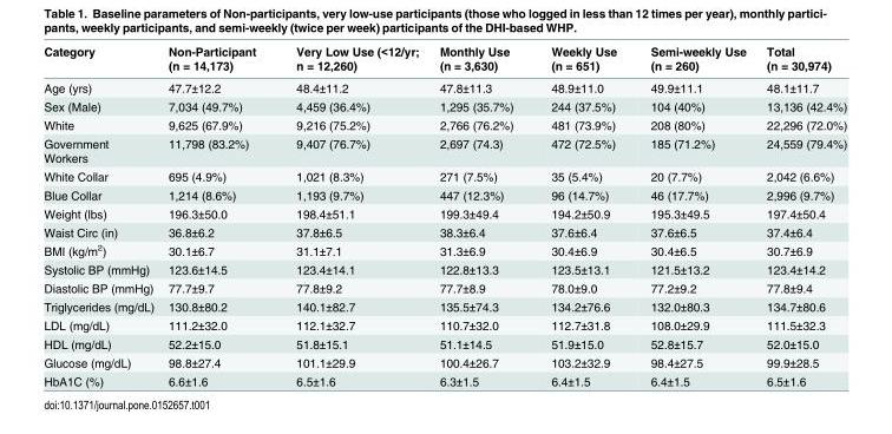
<table><thead><tr><td>Category</td><td>Non-Participant (n = 14,173)</td><td>Very Low Use (&lt;12/yr; n = 12,260)</td><td>Monthly Use (n = 3,630)</td><td>Weekly Use (n = 651)</td><td>Semi-weekly Use (n = 260)</td><td>Total (n = 30,974)</td></tr></thead><tbody><tr><td>Age (yrs)</td><td>47.7±12.2</td><td>48.4±11.2</td><td>47.8±11.3</td><td>48.9±11.0</td><td>49.9±11.1</td><td>48.1±11.7</td></tr><tr><td>Sex (Male)</td><td>7,034 (49.7%)</td><td>4,459 (36.4%)</td><td>1,295 (35.7%)</td><td>244 (37.5%)</td><td>104 (40%)</td><td>13,136 (42.4%)</td></tr><tr><td>White</td><td>9,625 (67.9%)</td><td>9,216 (75.2%)</td><td>2,766 (76.2%)</td><td>481 (73.9%)</td><td>208 (80%)</td><td>22,296 (72.0%)</td></tr><tr><td>Government Workers</td><td>11,798 (83.2%)</td><td>9,407 (76.7%)</td><td>2,697 (74.3)</td><td>472 (72.5%)</td><td>185 (71.2%)</td><td>24,559 (79.4%)</td></tr><tr><td>White Collar</td><td>695 (4.9%)</td><td>1,021 (8.3%)</td><td>271 (7.5%)</td><td>35 (5.4%)</td><td>20 (7.7%)</td><td>2,042 (6.6%)</td></tr><tr><td>Blue Collar</td><td>1,214 (8.6%)</td><td>1,193 (9.7%)</td><td>447 (12.3%)</td><td>96 (14.7%)</td><td>46 (17.7%)</td><td>2,996 (9.7%)</td></tr><tr><td>Weight (lbs)</td><td>196.3±50.0</td><td>198.4±51.1</td><td>199.3±49.4</td><td>194.2±50.9</td><td>195.3±49.5</td><td>197.4±50.4</td></tr><tr><td>Waist Circ (in)</td><td>36.8±6.2</td><td>37.8±6.5</td><td>38.3±6.4</td><td>37.6±6.4</td><td>37.6±6.5</td><td>37.4±6.4</td></tr><tr><td>BMI (kg/m<sup>2</sup>)</td><td>30.1±6.7</td><td>31.1±7.1</td><td>31.3±6.9</td><td>30.4±6.9</td><td>30.4±6.5</td><td>30.7±6.9</td></tr><tr><td>Systolic BP (mmHg)</td><td>123.6±14.5</td><td>123.4±14.1</td><td>122.8±13.3</td><td>123.5±13.1</td><td>121.5±13.2</td><td>123.4±14.2</td></tr><tr><td>Diastolic BP (mmHg)</td><td>77.7±9.7</td><td>77.8±9.2</td><td>77.7±8.9</td><td>78.0±9.0</td><td>77.2±9.2</td><td>77.8±9.4</td></tr><tr><td>Triglycerides (mg/dL)</td><td>130.8±80.2</td><td>140.1±82.7</td><td>135.5±74.3</td><td>134.2±76.6</td><td>132.0±80.3</td><td>134.7±80.6</td></tr><tr><td>LDL (mg/dL)</td><td>111.2±32.0</td><td>112.1±32.7</td><td>110.7±32.0</td><td>112.7±31.8</td><td>108.0±29.9</td><td>111.5±32.3</td></tr><tr><td>HDL (mg/dL)</td><td>52.2±15.0</td><td>51.8±15.1</td><td>51.1±14.5</td><td>51.9±15.0</td><td>52.8±15.7</td><td>52.0±15.0</td></tr><tr><td>Glucose (mg/dL)</td><td>98.8±27.4</td><td>101.1±29.9</td><td>100.4±26.7</td><td>103.2±32.9</td><td>98.4±27.5</td><td>99.9±28.5</td></tr><tr><td>HbA1C (%)</td><td>6.6±1.6</td><td>6.5±1.6</td><td>6.3±1.5</td><td>6.4±1.5</td><td>6.4±1.5</td><td>6.5±1.6</td></tr></tbody></table>